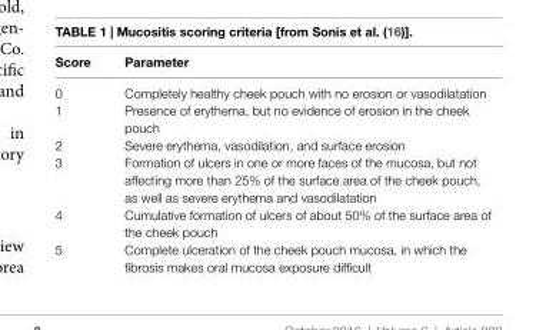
<table><thead><tr><td>score</td><td>Parameter</td></tr></thead><tbody><tr><td>0</td><td>Completely healthy cheek pouch with no erosion or vasodilatation</td></tr><tr><td>1</td><td>Presence of erythema, but no evidence of erosion in the cheek pouch</td></tr><tr><td>2</td><td>Severe erythema, vasodilation, and surface erosion</td></tr><tr><td>3</td><td>Formation of ulcers in one or more faces of the mucosa, but not affecting more than 25% of the surface area of the cheek pouch, as well as severe erythema and vasodilatation</td></tr><tr><td>4</td><td>Cumulative formation of ulcers of about 50% of the surface area of the cheek pouch</td></tr><tr><td>5</td><td>Complete ulceration of the cheek pouch mucosa, in which the fibrosis makes oral mucosa exposure difficult</td></tr></tbody></table>